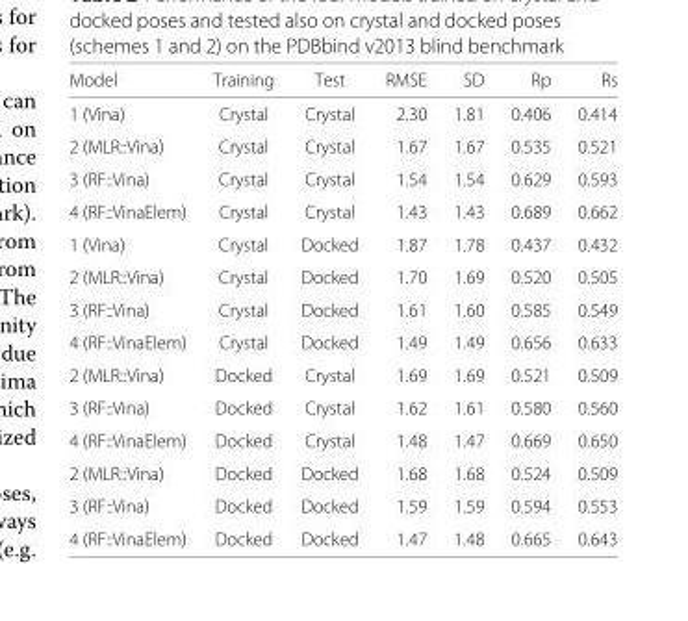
<table><thead><tr><td>Model</td><td>Training</td><td>Test</td><td>RMSE</td><td>SD</td><td>Rp</td><td>Rs</td></tr></thead><tbody><tr><td>1 (Vina)</td><td>Crystal</td><td>Crystal</td><td>2.30</td><td>1.81</td><td>0.406</td><td>0.414</td></tr><tr><td>2 (MLR::Vina)</td><td>Crystal</td><td>Crystal</td><td>1.67</td><td>1.67</td><td>0.535</td><td>0.521</td></tr><tr><td>3 (RF::Vina)</td><td>Crystal</td><td>Crystal</td><td>1.54</td><td>1.54</td><td>0.629</td><td>0.593</td></tr><tr><td>4 (RF::VinaElem)</td><td>Crystal</td><td>Crystal</td><td>1.43</td><td>1.43</td><td>0.689</td><td>0.662</td></tr><tr><td>1 (Vina)</td><td>Crystal</td><td>Docked</td><td>1.87</td><td>1.78</td><td>0.437</td><td>0.432</td></tr><tr><td>2 (MLR::Vina)</td><td>Crystal</td><td>Docked</td><td>1.70</td><td>1.69</td><td>0.520</td><td>0.505</td></tr><tr><td>3 (RF::Vina)</td><td>Crystal</td><td>Docked</td><td>1.61</td><td>1.60</td><td>0.585</td><td>0.549</td></tr><tr><td>4 (RF::VinaElem)</td><td>Crystal</td><td>Docked</td><td>1.49</td><td>1.49</td><td>0.656</td><td>0.633</td></tr><tr><td>2 (MLR::Vina)</td><td>Docked</td><td>Crystal</td><td>1.69</td><td>1.69</td><td>0.521</td><td>0.509</td></tr><tr><td>3 (RF::Vina)</td><td>Docked</td><td>Crystal</td><td>1.62</td><td>1.61</td><td>0.580</td><td>0.560</td></tr><tr><td>4 (RF::VinaElem)</td><td>Docked</td><td>Crystal</td><td>1.48</td><td>1.47</td><td>0.669</td><td>0.650</td></tr><tr><td>2 (MLR::Vina)</td><td>Docked</td><td>Docked</td><td>1.68</td><td>1.68</td><td>0.524</td><td>0.509</td></tr><tr><td>3 (RF::Vina)</td><td>Docked</td><td>Docked</td><td>1.59</td><td>1.59</td><td>0.594</td><td>0.553</td></tr><tr><td>4 (RF::VinaElem)</td><td>Docked</td><td>Docked</td><td>1.47</td><td>1.48</td><td>0.665</td><td>0.643</td></tr></tbody></table>